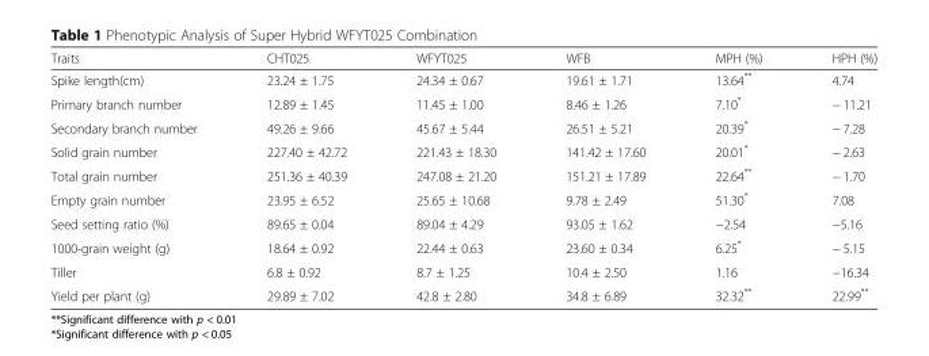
<table><thead><tr><td>Traits</td><td>CHT025</td><td>WFYT025</td><td>WFB</td><td>MPH (%)</td><td>HPH (%)</td></tr></thead><tbody><tr><td>Spike length(cm)</td><td>23.24 ± 1.75</td><td>24.34 ± 0.67</td><td>19.61 ± 1.71</td><td>13.64**</td><td>4.74</td></tr><tr><td>Primary branch number</td><td>12.89 ± 1.45</td><td>11.45 ± 1.00</td><td>8.46 ± 1.26</td><td>7.10*</td><td>− 11.21</td></tr><tr><td>Secondary branch number</td><td>49.26 ± 9.66</td><td>45.67 ± 5.44</td><td>26.51 ± 5.21</td><td>20.39*</td><td>− 7.28</td></tr><tr><td>Solid grain number</td><td>227.40 ± 42.72</td><td>221.43 ± 18.30</td><td>141.42 ± 17.60</td><td>20.01*</td><td>− 2.63</td></tr><tr><td>Total grain number</td><td>251.36 ± 40.39</td><td>247.08 ± 21.20</td><td>151.21 ± 17.89</td><td>22.64**</td><td>− 1.70</td></tr><tr><td>Empty grain number</td><td>23.95 ± 6.52</td><td>25.65 ± 10.68</td><td>9.78 ± 2.49</td><td>51.30*</td><td>7.08</td></tr><tr><td>Seed setting ratio (%)</td><td>89.65 ± 0.04</td><td>89.04 ± 4.29</td><td>93.05 ± 1.62</td><td>−2.54</td><td>−5.16</td></tr><tr><td>1000-grain weight (g)</td><td>18.64 ± 0.92</td><td>22.44 ± 0.63</td><td>23.60 ± 0.34</td><td>6.25*</td><td>− 5.15</td></tr><tr><td>Tiller</td><td>6.8 ± 0.92</td><td>8.7 ± 1.25</td><td>10.4 ± 2.50</td><td>1.16</td><td>−16.34</td></tr><tr><td>Yield per plant (g)</td><td>29.89 ± 7.02</td><td>42.8 ± 2.80</td><td>34.8 ± 6.89</td><td>32.32**</td><td>22.99**</td></tr></tbody></table>